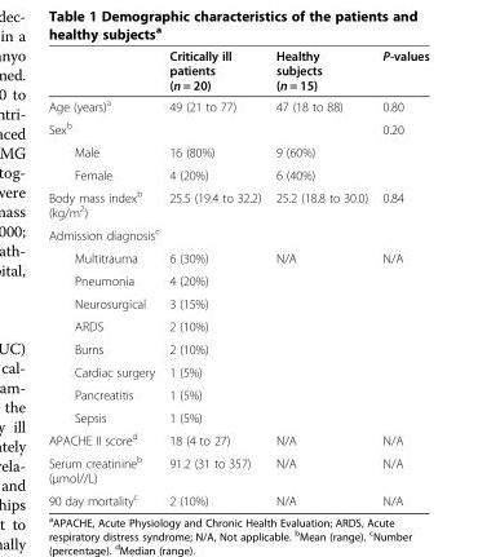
<table><thead><tr><td></td><td>Critically ill patients (n = 20)</td><td>Healthy subjects (n = 15)</td><td>P-values</td></tr></thead><tbody><tr><td>Age (years)<sup>a</sup></td><td>49 (21 to 77)</td><td>47 (18 to 88)</td><td>0.80</td></tr><tr><td colspan="3">Sex<sup>b</sup></td><td rowspan="3">0.20</td></tr><tr><td>Male</td><td>16 (80%)</td><td>9 (60%)</td></tr><tr><td>Female</td><td>4 (20%)</td><td>6 (40%)</td></tr><tr><td>Body mass index<sup>b</sup> (kg/m<sup>2</sup>)</td><td>25.5 (19.4 to 32.2)</td><td>25.2 (18.8 to 30.0)</td><td>0.84</td></tr><tr><td colspan="4">Admission diagnosis<sup>c</sup></td></tr><tr><td>Multitrauma</td><td>6 (30%)</td><td rowspan="8">N/A</td><td rowspan="8">N/A</td></tr><tr><td>Pneumonia</td><td>4 (20%)</td></tr><tr><td>Neurosurgical</td><td>3 (15%)</td></tr><tr><td>ARDS</td><td>2 (10%)</td></tr><tr><td>Burns</td><td>2 (10%)</td></tr><tr><td>Cardiac surgery</td><td>1 (5%)</td></tr><tr><td>Pancreatitis</td><td>1 (5%)</td></tr><tr><td>Sepsis</td><td>1 (5%)</td></tr><tr><td>APACHE II score<sup>d</sup></td><td>18 (4 to 27)</td><td>N/A</td><td>N/A</td></tr><tr><td>Serum creatinine<sup>b</sup> (μmol//L)</td><td>91.2 (31 to 357)</td><td>N/A</td><td>N/A</td></tr><tr><td>90 day mortality<sup>c</sup></td><td>2 (10%)</td><td>N/A</td><td>N/A</td></tr></tbody></table>